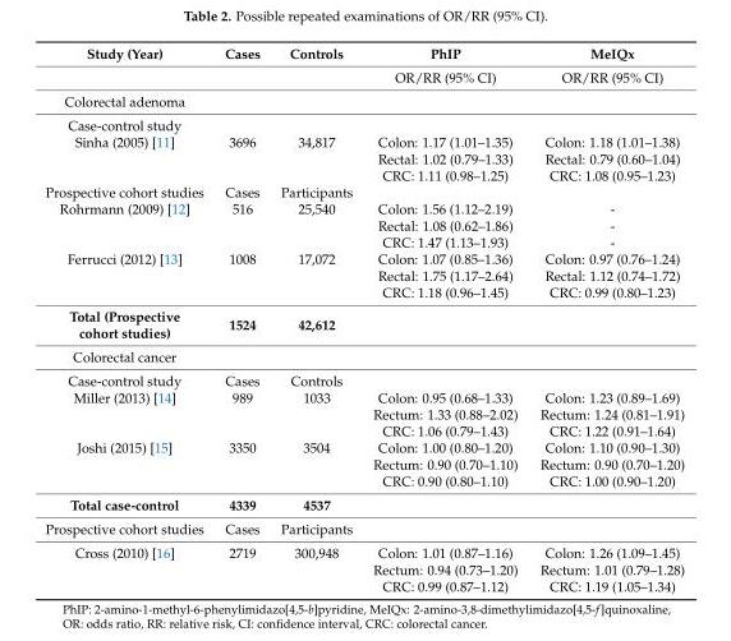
<table><thead><tr><td>Study (Year)</td><td>Cases</td><td>Controls</td><td>PhIP</td><td>MeIQx</td></tr></thead><tbody><tr><td></td><td></td><td></td><td>OR/RR (95% CI)</td><td>OR/RR (95% CI)</td></tr><tr><td colspan="5">Colorectal adenoma</td></tr><tr><td colspan="5">Case-control study</td></tr><tr><td rowspan="3">Sinha (2005) [11]</td><td>3696</td><td>34,817</td><td>Colon: 1.17 (1.01–1.35)</td><td>Colon: 1.18 (1.01–1.38)</td></tr><tr><td></td><td></td><td>Rectal: 1.02 (0.79–1.33)</td><td>Rectal: 0.79 (0.60–1.04)</td></tr><tr><td></td><td></td><td>CRC: 1.11 (0.98–1.25)</td><td>CRC: 1.08 (0.95–1.23)</td></tr><tr><td>Prospective cohort studies</td><td>Cases</td><td>Participants</td><td></td><td></td></tr><tr><td rowspan="3">Rohrmann (2009) [12]</td><td>516</td><td>25,540</td><td>Colon: 1.56 (1.12–2.19)</td><td>-</td></tr><tr><td></td><td></td><td>Rectal: 1.08 (0.62–1.86)</td><td>-</td></tr><tr><td></td><td></td><td>CRC: 1.47 (1.13–1.93)</td><td>-</td></tr><tr><td rowspan="3">Ferrucci (2012) [13]</td><td>1008</td><td>17,072</td><td>Colon: 1.07 (0.85–1.36)</td><td>Colon: 0.97 (0.76–1.24)</td></tr><tr><td></td><td></td><td>Rectal: 1.75 (1.17–2.64)</td><td>Rectal: 1.12 (0.74–1.72)</td></tr><tr><td></td><td></td><td>CRC: 1.18 (0.96–1.45)</td><td>CRC: 0.99 (0.80–1.23)</td></tr><tr><td>Total (Prospective cohort studies)</td><td>1524</td><td>42,612</td><td></td><td></td></tr><tr><td colspan="5">Colorectal cancer</td></tr><tr><td>Case-control study</td><td>Cases</td><td>Controls</td><td></td><td></td></tr><tr><td rowspan="3">Miller (2013) [14]</td><td>989</td><td>1033</td><td>Colon: 0.95 (0.68–1.33)</td><td>Colon: 1.23 (0.89–1.69)</td></tr><tr><td></td><td></td><td>Rectum: 1.33 (0.88–2.02)</td><td>Rectum: 1.24 (0.81–1.91)</td></tr><tr><td></td><td></td><td>CRC: 1.06 (0.79–1.43)</td><td>CRC: 1.22 (0.91–1.64)</td></tr><tr><td rowspan="3">Joshi (2015) [15]</td><td>3350</td><td>3504</td><td>Colon: 1.00 (0.80–1.20)</td><td>Colon: 1.10 (0.90–1.30)</td></tr><tr><td></td><td></td><td>Rectum: 0.90 (0.70–1.10)</td><td>Rectum: 0.90 (0.70–1.20)</td></tr><tr><td></td><td></td><td>CRC: 0.90 (0.80–1.10)</td><td>CRC: 1.00 (0.90–1.20)</td></tr><tr><td>Total case-control</td><td>4339</td><td>4537</td><td></td><td></td></tr><tr><td>Prospective cohort studies</td><td>Cases</td><td>Participants</td><td></td><td></td></tr><tr><td rowspan="3">Cross (2010) [16]</td><td>2719</td><td>300,948</td><td>Colon: 1.01 (0.87–1.16)</td><td>Colon: 1.26 (1.09–1.45)</td></tr><tr><td></td><td></td><td>Rectum: 0.94 (0.73–1.20)</td><td>Rectum: 1.01 (0.79–1.28)</td></tr><tr><td></td><td></td><td>CRC: 0.99 (0.87–1.12)</td><td>CRC: 1.19 (1.05–1.34)</td></tr></tbody></table>